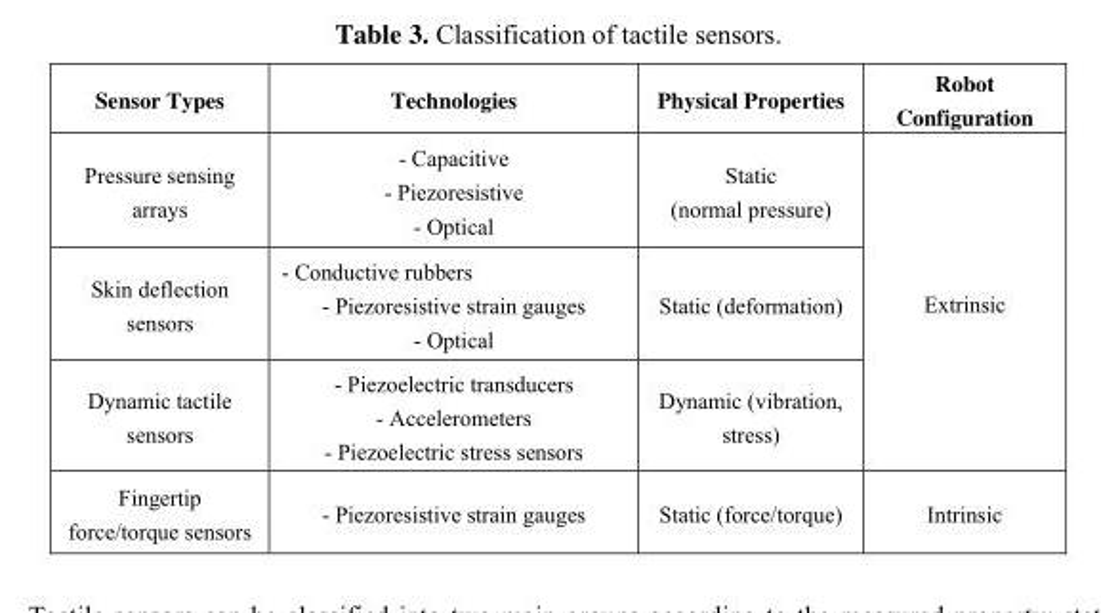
<table><thead><tr><td>Sensor Types</td><td>Technologies</td><td>Physical Properties</td><td>Robot Configuration</td></tr></thead><tbody><tr><td>Pressure sensing arrays</td><td>- Capacitive - Piezoresistive - Optical</td><td>Static (normal pressure)</td><td rowspan="3">Extrinsic</td></tr><tr><td>Skin deflection sensors</td><td>- Conductive rubbers - Piezoresistive strain gauges - Optical</td><td>Static (deformation)</td></tr><tr><td>Dynamic tactile sensors</td><td>- Piezoelectric transducers - Accelerometers - Piezoelectric stress sensors</td><td>Dynamic (vibration, stress)</td></tr><tr><td>Fingertip force/torque sensors</td><td>- Piezoresistive strain gauges</td><td>Static (force/torque)</td><td>Intrinsic</td></tr></tbody></table>